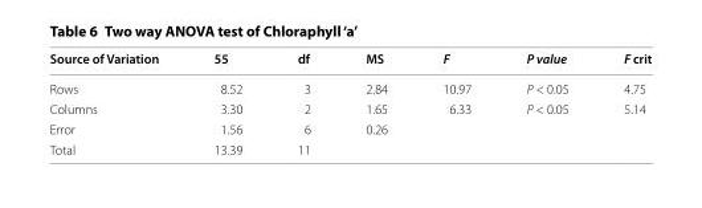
<table><thead><tr><td>Source of Variation</td><td>55</td><td>df</td><td>MS</td><td>F</td><td>P value</td><td>F crit</td></tr></thead><tbody><tr><td>Rows</td><td>8.52</td><td>3</td><td>2.84</td><td>10.97</td><td>P &lt; 0.05</td><td>4.75</td></tr><tr><td>Columns</td><td>3.30</td><td>2</td><td>1.65</td><td>6.33</td><td>P &lt; 0.05</td><td>5.14</td></tr><tr><td>Error</td><td>1.56</td><td>6</td><td>0.26</td><td></td><td></td><td></td></tr><tr><td>Total</td><td>13.39</td><td>11</td><td></td><td></td><td></td><td></td></tr></tbody></table>